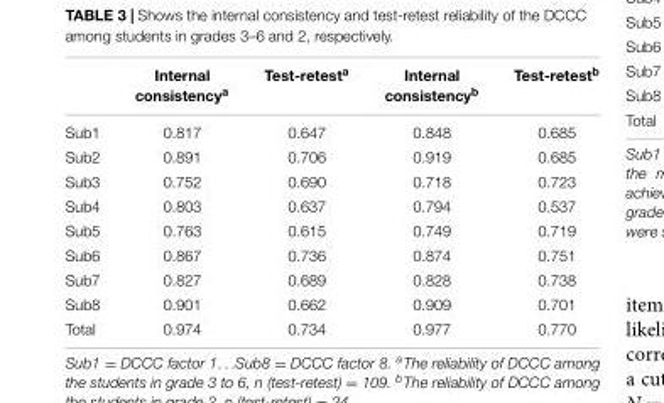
<table><thead><tr><td></td><td>Internal consistency<sup>a</sup></td><td>Test-retest<sup>a</sup></td><td>Internal consistency<sup>b</sup></td><td>Test-retest<sup>b</sup></td></tr></thead><tbody><tr><td>Sub1</td><td>0.817</td><td>0.647</td><td>0.848</td><td>0.685</td></tr><tr><td>Sub2</td><td>0.891</td><td>0.706</td><td>0.919</td><td>0.685</td></tr><tr><td>Sub3</td><td>0.752</td><td>0.690</td><td>0.718</td><td>0.723</td></tr><tr><td>Sub4</td><td>0.803</td><td>0.637</td><td>0.794</td><td>0.537</td></tr><tr><td>Sub5</td><td>0.763</td><td>0.615</td><td>0.749</td><td>0.719</td></tr><tr><td>Sub6</td><td>0.867</td><td>0.736</td><td>0.874</td><td>0.751</td></tr><tr><td>Sub7</td><td>0.827</td><td>0.689</td><td>0.828</td><td>0.738</td></tr><tr><td>Sub8</td><td>0.901</td><td>0.662</td><td>0.909</td><td>0.701</td></tr><tr><td>Total</td><td>0.974</td><td>0.734</td><td>0.977</td><td>0.770</td></tr></tbody></table>